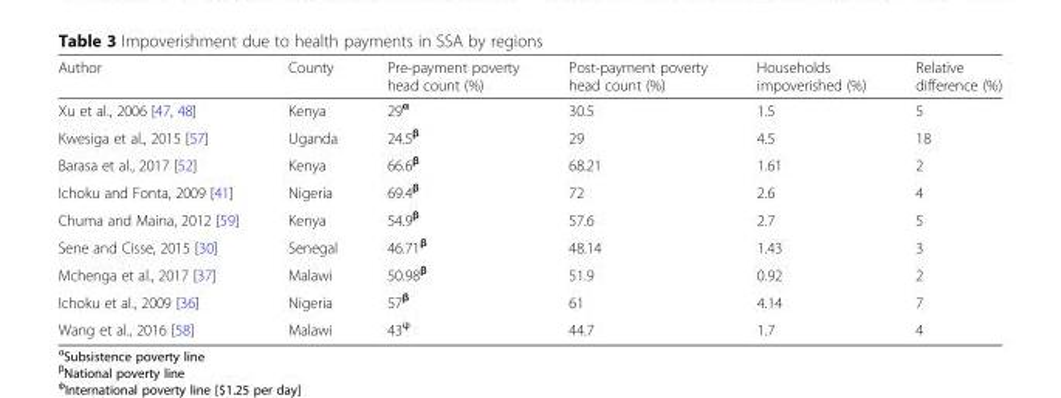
<table><thead><tr><td>Author</td><td>County</td><td>Pre-payment poverty head count (%)</td><td>Post-payment poverty head count (%)</td><td>Households impoverished (%)</td><td>Relative difference (%)</td></tr></thead><tbody><tr><td>Xu et al., 2006 [47, 48]</td><td>Kenya</td><td>29<sup>α</sup></td><td>30.5</td><td>1.5</td><td>5</td></tr><tr><td>Kwesiga et al., 2015 [57]</td><td>Uganda</td><td>24.5<sup>β</sup></td><td>29</td><td>4.5</td><td>18</td></tr><tr><td>Barasa et al., 2017 [52]</td><td>Kenya</td><td>66.6<sup>β</sup></td><td>68.21</td><td>1.61</td><td>2</td></tr><tr><td>Ichoku and Fonta, 2009 [41]</td><td>Nigeria</td><td>69.4<sup>β</sup></td><td>72</td><td>2.6</td><td>4</td></tr><tr><td>Chuma and Maina, 2012 [59]</td><td>Kenya</td><td>54.9<sup>β</sup></td><td>57.6</td><td>2.7</td><td>5</td></tr><tr><td>Sene and Cisse, 2015 [30]</td><td>Senegal</td><td>46.71<sup>β</sup></td><td>48.14</td><td>1.43</td><td>3</td></tr><tr><td>Mchenga et al., 2017 [37]</td><td>Malawi</td><td>50.98<sup>β</sup></td><td>51.9</td><td>0.92</td><td>2</td></tr><tr><td>Ichoku et al., 2009 [36]</td><td>Nigeria</td><td>57<sup>β</sup></td><td>61</td><td>4.14</td><td>7</td></tr><tr><td>Wang et al., 2016 [58]</td><td>Malawi</td><td>43<sup>ϕ</sup></td><td>44.7</td><td>1.7</td><td>4</td></tr></tbody></table>